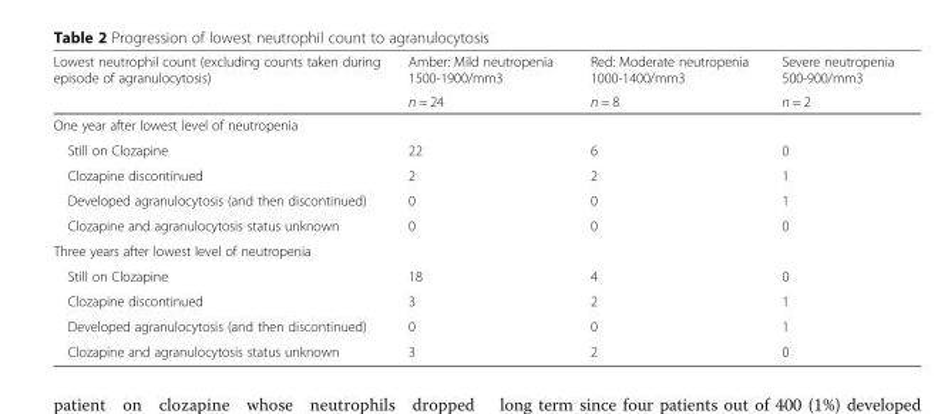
<table><thead><tr><td rowspan="2">Lowest neutrophil count (excluding counts taken during episode of agranulocytosis)</td><td rowspan="2">Amber: Mild neutropenia 1500-1900/mm3 n = 24</td><td rowspan="2">Red: Moderate neutropenia 1000-1400/mm3 n = 8</td><td rowspan="2">Severe neutropenia 500-900/mm3 n = 2</td></tr><tr></tr></thead><tbody><tr><td colspan="4">One year after lowest level of neutropenia</td></tr><tr><td>Still on Clozapine</td><td>22</td><td>6</td><td>0</td></tr><tr><td>Clozapine discontinued</td><td>2</td><td>2</td><td>1</td></tr><tr><td>Developed agranulocytosis (and then discontinued)</td><td>0</td><td>0</td><td>1</td></tr><tr><td>Clozapine and agranulocytosis status unknown</td><td>0</td><td>0</td><td>0</td></tr><tr><td colspan="4">Three years after lowest level of neutropenia</td></tr><tr><td>Still on Clozapine</td><td>18</td><td>4</td><td>0</td></tr><tr><td>Clozapine discontinued</td><td>3</td><td>2</td><td>1</td></tr><tr><td>Developed agranulocytosis (and then discontinued)</td><td>0</td><td>0</td><td>1</td></tr><tr><td>Clozapine and agranulocytosis status unknown</td><td>3</td><td>2</td><td>0</td></tr></tbody></table>